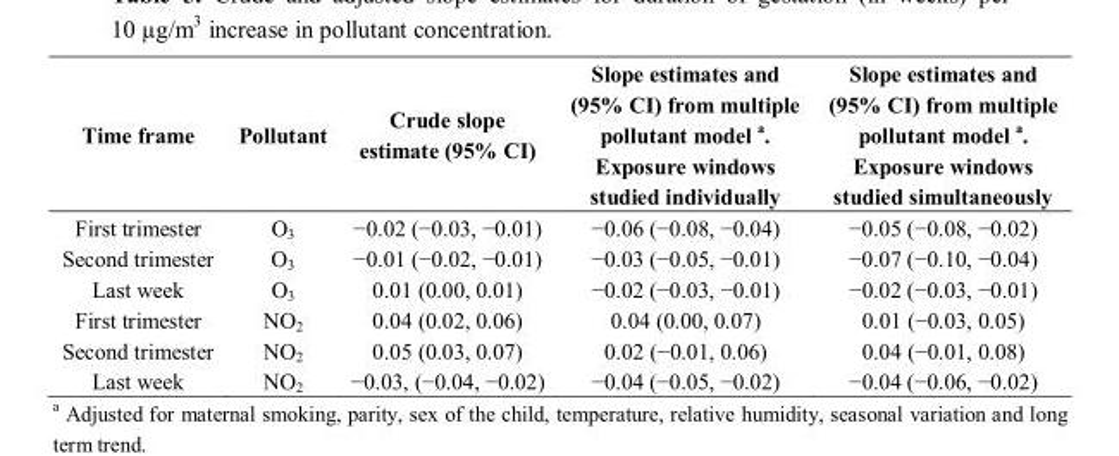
<table><thead><tr><td>Time frame</td><td>Pollutant</td><td>Crude slope estimate (95% CI)</td><td>Slope estimates and (95% CI) from multiple pollutant model <sup>a</sup>. Exposure windows studied individually</td><td>Slope estimates and (95% CI) from multiple pollutant model <sup>a</sup>. Exposure windows studied simultaneously</td></tr></thead><tbody><tr><td>First trimester</td><td>O<sub>3</sub></td><td>−0.02 (−0.03, −0.01)</td><td>−0.06 (−0.08, −0.04)</td><td>−0.05 (−0.08, −0.02)</td></tr><tr><td>Second trimester</td><td>O<sub>3</sub></td><td>−0.01 (−0.02, −0.01)</td><td>−0.03 (−0.05, −0.01)</td><td>−0.07 (−0.10, −0.04)</td></tr><tr><td>Last week</td><td>O<sub>3</sub></td><td>0.01 (0.00, 0.01)</td><td>−0.02 (−0.03, −0.01)</td><td>−0.02 (−0.03, −0.01)</td></tr><tr><td>First trimester</td><td>NO<sub>2</sub></td><td>0.04 (0.02, 0.06)</td><td>0.04 (0.00, 0.07)</td><td>0.01 (−0.03, 0.05)</td></tr><tr><td>Second trimester</td><td>NO<sub>2</sub></td><td>0.05 (0.03, 0.07)</td><td>0.02 (−0.01, 0.06)</td><td>0.04 (−0.01, 0.08)</td></tr><tr><td>Last week</td><td>NO<sub>2</sub></td><td>−0.03, (−0.04, −0.02)</td><td>−0.04 (−0.05, −0.02)</td><td>−0.04 (−0.06, −0.02)</td></tr></tbody></table>